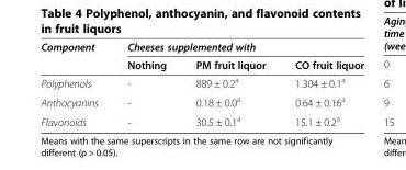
<table><thead><tr><td rowspan="2">Component</td><td colspan="3">Cheeses supplemented with</td></tr><tr><td>Nothing</td><td>PM fruit liquor</td><td>CO fruit liquor</td></tr></thead><tbody><tr><td>Polyphenols</td><td>-</td><td>889 ± 0.2<sup>a</sup></td><td>1.304 ± 0.1<sup>a</sup></td></tr><tr><td>Anthocyanins</td><td>-</td><td>0.18 ± 0.0<sup>a</sup></td><td>0.64 ± 0.16<sup>a</sup></td></tr><tr><td>Flavonoids</td><td>-</td><td>30.5 ± 0.1<sup>a</sup></td><td>15.1 ± 0.2<sup>a</sup></td></tr></tbody></table>